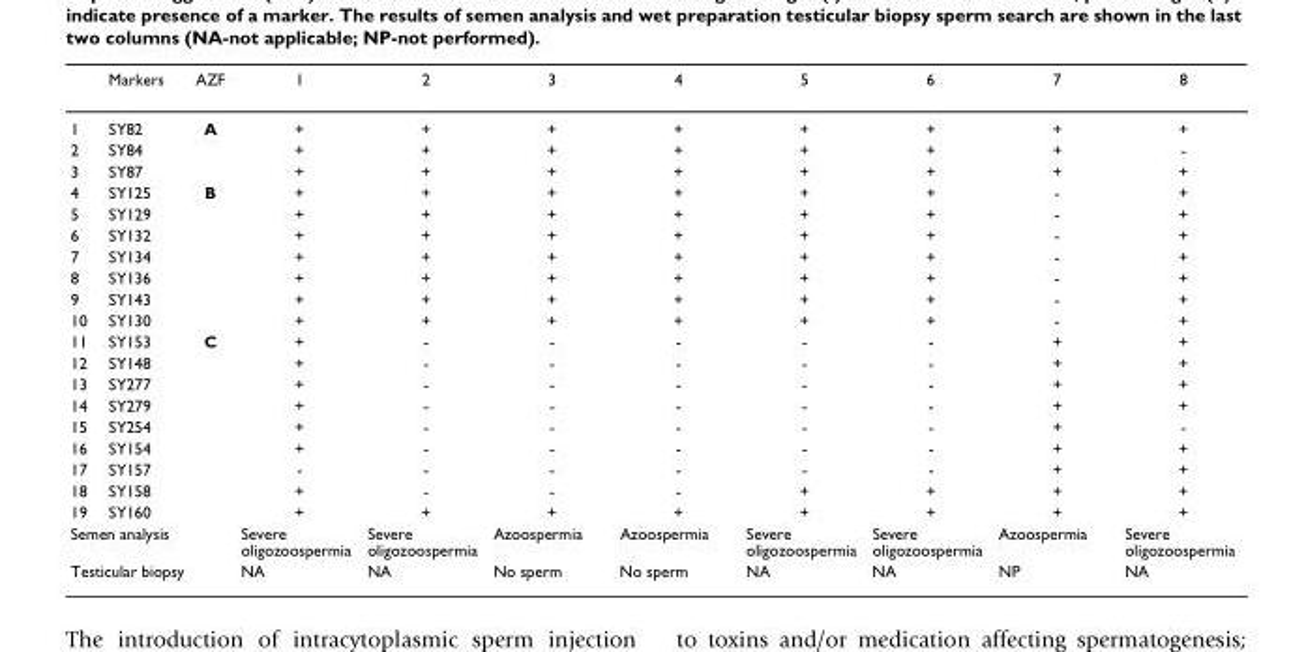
<table><thead><tr><td></td><td>Markers</td><td>AZF</td><td>1</td><td>2</td><td>3</td><td>4</td><td>5</td><td>6</td><td>7</td><td>8</td></tr></thead><tbody><tr><td>1</td><td>SY82</td><td>A</td><td>+</td><td>+</td><td>+</td><td>+</td><td>+</td><td>+</td><td>+</td><td>+</td></tr><tr><td>2</td><td>SY84</td><td></td><td>+</td><td>+</td><td>+</td><td>+</td><td>+</td><td>+</td><td>+</td><td>-</td></tr><tr><td>3</td><td>SY87</td><td></td><td>+</td><td>+</td><td>+</td><td>+</td><td>+</td><td>+</td><td>+</td><td>+</td></tr><tr><td>4</td><td>SY125</td><td>B</td><td>+</td><td>+</td><td>+</td><td>+</td><td>+</td><td>+</td><td>-</td><td>+</td></tr><tr><td>5</td><td>SY129</td><td></td><td>+</td><td>+</td><td>+</td><td>+</td><td>+</td><td>+</td><td>-</td><td>+</td></tr><tr><td>6</td><td>SY132</td><td></td><td>+</td><td>+</td><td>+</td><td>+</td><td>+</td><td>+</td><td>-</td><td>+</td></tr><tr><td>7</td><td>SY134</td><td></td><td>+</td><td>+</td><td>+</td><td>+</td><td>+</td><td>+</td><td>-</td><td>+</td></tr><tr><td>8</td><td>SY136</td><td></td><td>+</td><td>+</td><td>+</td><td>+</td><td>+</td><td>+</td><td>-</td><td>+</td></tr><tr><td>9</td><td>SY143</td><td></td><td>+</td><td>+</td><td>+</td><td>+</td><td>+</td><td>+</td><td>-</td><td>+</td></tr><tr><td>10</td><td>SY130</td><td></td><td>+</td><td>+</td><td>+</td><td>+</td><td>+</td><td>+</td><td>-</td><td>+</td></tr><tr><td>11</td><td>SY153</td><td>C</td><td>+</td><td>-</td><td>-</td><td>-</td><td>-</td><td>-</td><td>+</td><td>+</td></tr><tr><td>12</td><td>SY148</td><td></td><td>+</td><td>-</td><td>-</td><td>-</td><td>-</td><td>-</td><td>+</td><td>+</td></tr><tr><td>13</td><td>SY277</td><td></td><td>+</td><td>-</td><td>-</td><td>-</td><td>-</td><td>-</td><td>+</td><td>+</td></tr><tr><td>14</td><td>SY279</td><td></td><td>+</td><td>-</td><td>-</td><td>-</td><td>-</td><td>-</td><td>+</td><td>+</td></tr><tr><td>15</td><td>SY254</td><td></td><td>+</td><td>-</td><td>-</td><td>-</td><td>-</td><td>-</td><td>+</td><td>-</td></tr><tr><td>16</td><td>SY154</td><td></td><td>+</td><td>-</td><td>-</td><td>-</td><td>-</td><td>-</td><td>+</td><td>+</td></tr><tr><td>17</td><td>SY157</td><td></td><td>-</td><td>-</td><td>-</td><td>-</td><td>-</td><td>-</td><td>+</td><td>+</td></tr><tr><td>18</td><td>SY158</td><td></td><td>+</td><td>-</td><td>-</td><td>-</td><td>+</td><td>+</td><td>+</td><td>+</td></tr><tr><td>19</td><td>SY160</td><td></td><td>+</td><td>+</td><td>+</td><td>+</td><td>+</td><td>+</td><td>+</td><td>+</td></tr><tr><td colspan="3">Semen analysis</td><td>Severe oligozoospermia</td><td>Severe oligozoospermia</td><td>Azoospermia</td><td>Azoospermia</td><td>Severe oligozoospermia</td><td>Severe oligozoospermia</td><td>Azoospermia</td><td>Severe oligozoospermia</td></tr><tr><td colspan="3">Testicular biopsy</td><td>NA</td><td>NA</td><td>No sperm</td><td>No sperm</td><td>NA</td><td>NA</td><td>NP</td><td>NA</td></tr></tbody></table>